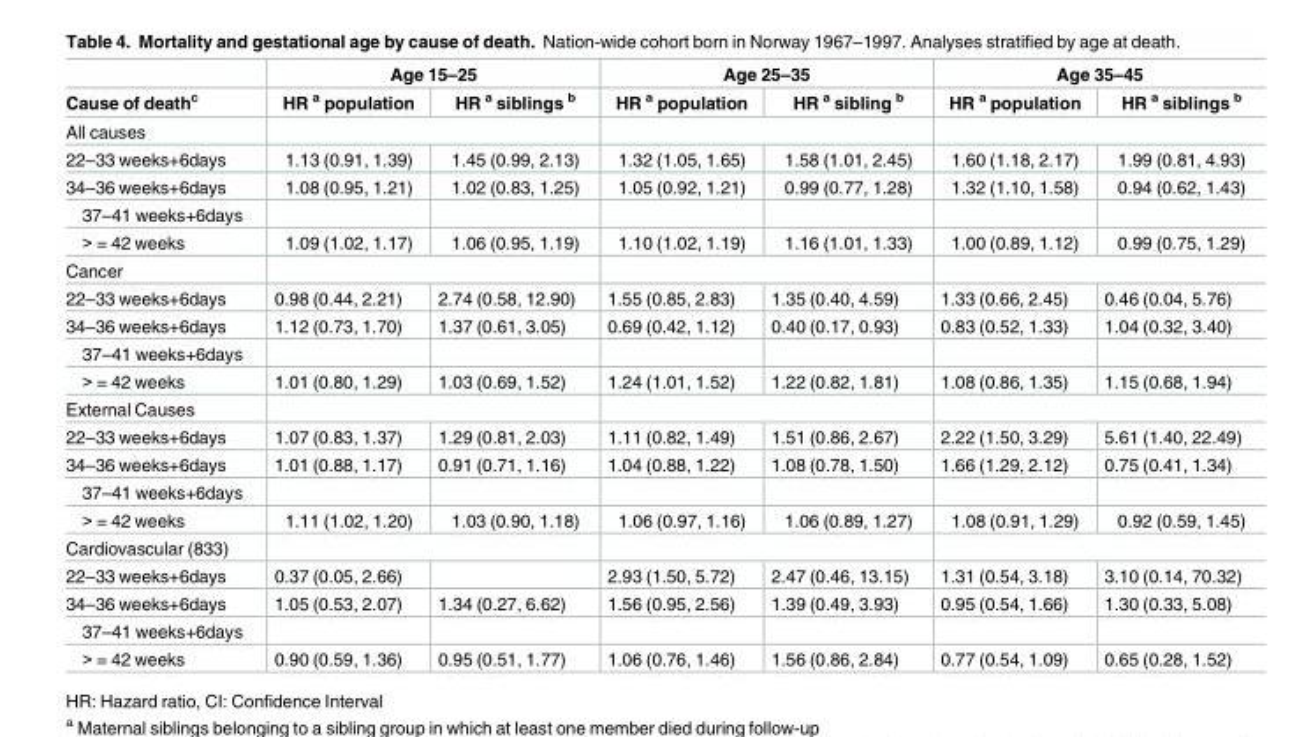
<table><thead><tr><td rowspan="2">Cause of death<sup>c</sup></td><td colspan="2">Age 15–25</td><td colspan="2">Age 25–35</td><td colspan="2">Age 35–45</td></tr><tr><td>HR <sup>a</sup> population</td><td>HR <sup>a</sup> siblings <sup>b</sup></td><td>HR <sup>a</sup> population</td><td>HR <sup>a</sup> sibling <sup>b</sup></td><td>HR <sup>a</sup> population</td><td>HR <sup>a</sup> siblings <sup>b</sup></td></tr></thead><tbody><tr><td colspan="7">All causes</td></tr><tr><td>22–33 weeks+6days</td><td>1.13 (0.91, 1.39)</td><td>1.45 (0.99, 2.13)</td><td>1.32 (1.05, 1.65)</td><td>1.58 (1.01, 2.45)</td><td>1.60 (1.18, 2.17)</td><td>1.99 (0.81, 4.93)</td></tr><tr><td>34–36 weeks+6days</td><td>1.08 (0.95, 1.21)</td><td>1.02 (0.83, 1.25)</td><td>1.05 (0.92, 1.21)</td><td>0.99 (0.77, 1.28)</td><td>1.32 (1.10, 1.58)</td><td>0.94 (0.62, 1.43)</td></tr><tr><td colspan="7">37–41 weeks+6days</td></tr><tr><td>&gt; = 42 weeks</td><td>1.09 (1.02, 1.17)</td><td>1.06 (0.95, 1.19)</td><td>1.10 (1.02, 1.19)</td><td>1.16 (1.01, 1.33)</td><td>1.00 (0.89, 1.12)</td><td>0.99 (0.75, 1.29)</td></tr><tr><td colspan="7">Cancer</td></tr><tr><td>22–33 weeks+6days</td><td>0.98 (0.44, 2.21)</td><td>2.74 (0.58, 12.90)</td><td>1.55 (0.85, 2.83)</td><td>1.35 (0.40, 4.59)</td><td>1.33 (0.66, 2.45)</td><td>0.46 (0.04, 5.76)</td></tr><tr><td>34–36 weeks+6days</td><td>1.12 (0.73, 1.70)</td><td>1.37 (0.61, 3.05)</td><td>0.69 (0.42, 1.12)</td><td>0.40 (0.17, 0.93)</td><td>0.83 (0.52, 1.33)</td><td>1.04 (0.32, 3.40)</td></tr><tr><td colspan="7">37–41 weeks+6days</td></tr><tr><td>&gt; = 42 weeks</td><td>1.01 (0.80, 1.29)</td><td>1.03 (0.69, 1.52)</td><td>1.24 (1.01, 1.52)</td><td>1.22 (0.82, 1.81)</td><td>1.08 (0.86, 1.35)</td><td>1.15 (0.68, 1.94)</td></tr><tr><td colspan="7">External Causes</td></tr><tr><td>22–33 weeks+6days</td><td>1.07 (0.83, 1.37)</td><td>1.29 (0.81, 2.03)</td><td>1.11 (0.82, 1.49)</td><td>1.51 (0.86, 2.67)</td><td>2.22 (1.50, 3.29)</td><td>5.61 (1.40, 22.49)</td></tr><tr><td>34–36 weeks+6days</td><td>1.01 (0.88, 1.17)</td><td>0.91 (0.71, 1.16)</td><td>1.04 (0.88, 1.22)</td><td>1.08 (0.78, 1.50)</td><td>1.66 (1.29, 2.12)</td><td>0.75 (0.41, 1.34)</td></tr><tr><td colspan="7">37–41 weeks+6days</td></tr><tr><td>&gt; = 42 weeks</td><td>1.11 (1.02, 1.20)</td><td>1.03 (0.90, 1.18)</td><td>1.06 (0.97, 1.16)</td><td>1.06 (0.89, 1.27)</td><td>1.08 (0.91, 1.29)</td><td>0.92 (0.59, 1.45)</td></tr><tr><td colspan="7">Cardiovascular (833)</td></tr><tr><td>22–33 weeks+6days</td><td>0.37 (0.05, 2.66)</td><td></td><td>2.93 (1.50, 5.72)</td><td>2.47 (0.46, 13.15)</td><td>1.31 (0.54, 3.18)</td><td>3.10 (0.14, 70.32)</td></tr><tr><td>34–36 weeks+6days</td><td>1.05 (0.53, 2.07)</td><td>1.34 (0.27, 6.62)</td><td>1.56 (0.95, 2.56)</td><td>1.39 (0.49, 3.93)</td><td>0.95 (0.54, 1.66)</td><td>1.30 (0.33, 5.08)</td></tr><tr><td colspan="7">37–41 weeks+6days</td></tr><tr><td>&gt; = 42 weeks</td><td>0.90 (0.59, 1.36)</td><td>0.95 (0.51, 1.77)</td><td>1.06 (0.76, 1.46)</td><td>1.56 (0.86, 2.84)</td><td>0.77 (0.54, 1.09)</td><td>0.65 (0.28, 1.52)</td></tr></tbody></table>